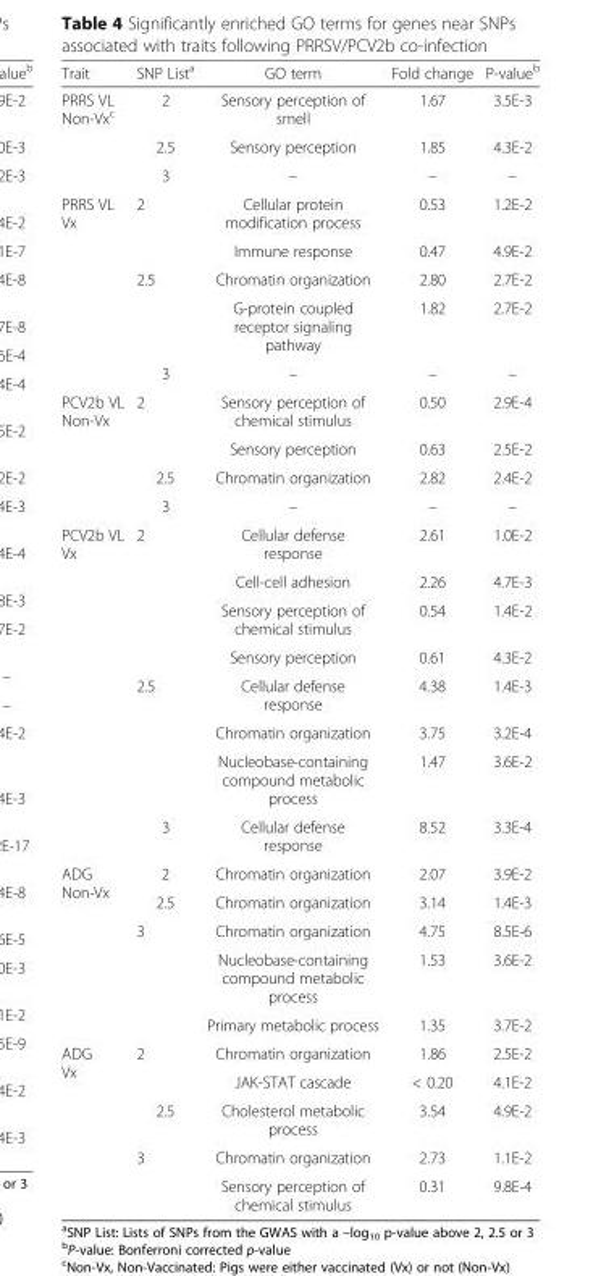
<table><thead><tr><td>Trait</td><td>SNP List<sup>a</sup></td><td>GO term</td><td>Fold change</td><td>P-value<sup>b</sup></td></tr></thead><tbody><tr><td rowspan="3">PRRS VL Non-Vx<sup>c</sup></td><td>2</td><td>Sensory perception of smell</td><td>1.67</td><td>3.5E-3</td></tr><tr><td>2.5</td><td>Sensory perception</td><td>1.85</td><td>4.3E-2</td></tr><tr><td>3</td><td>–</td><td>–</td><td>–</td></tr><tr><td rowspan="5">PRRS VL Vx</td><td rowspan="2">2</td><td>Cellular protein modification process</td><td>0.53</td><td>1.2E-2</td></tr><tr><td>Immune response</td><td>0.47</td><td>4.9E-2</td></tr><tr><td rowspan="2">2.5</td><td>Chromatin organization</td><td>2.80</td><td>2.7E-2</td></tr><tr><td>G-protein coupled receptor signaling pathway</td><td>1.82</td><td>2.7E-2</td></tr><tr><td>3</td><td>–</td><td>–</td><td>–</td></tr><tr><td rowspan="4">PCV2b VL Non-Vx</td><td rowspan="2">2</td><td>Sensory perception of chemical stimulus</td><td>0.50</td><td>2.9E-4</td></tr><tr><td>Sensory perception</td><td>0.63</td><td>2.5E-2</td></tr><tr><td>2.5</td><td>Chromatin organization</td><td>2.82</td><td>2.4E-2</td></tr><tr><td>3</td><td>–</td><td>–</td><td>–</td></tr><tr><td rowspan="8">PCV2b VL Vx</td><td rowspan="4">2</td><td>Cellular defense response</td><td>2.61</td><td>1.0E-2</td></tr><tr><td>Cell-cell adhesion</td><td>2.26</td><td>4.7E-3</td></tr><tr><td>Sensory perception of chemical stimulus</td><td>0.54</td><td>1.4E-2</td></tr><tr><td>Sensory perception</td><td>0.61</td><td>4.3E-2</td></tr><tr><td rowspan="3">2.5</td><td>Cellular defense response</td><td>4.38</td><td>1.4E-3</td></tr><tr><td>Chromatin organization</td><td>3.75</td><td>3.2E-4</td></tr><tr><td>Nucleobase-containing compound metabolic process</td><td>1.47</td><td>3.6E-2</td></tr><tr><td>3</td><td>Cellular defense response</td><td>8.52</td><td>3.3E-4</td></tr><tr><td rowspan="5">ADG Non-Vx</td><td>2</td><td>Chromatin organization</td><td>2.07</td><td>3.9E-2</td></tr><tr><td>2.5</td><td>Chromatin organization</td><td>3.14</td><td>1.4E-3</td></tr><tr><td rowspan="3">3</td><td>Chromatin organization</td><td>4.75</td><td>8.5E-6</td></tr><tr><td>Nucleobase-containing compound metabolic process</td><td>1.53</td><td>3.6E-2</td></tr><tr><td>Primary metabolic process</td><td>1.35</td><td>3.7E-2</td></tr><tr><td rowspan="5">ADG Vx</td><td rowspan="2">2</td><td>Chromatin organization</td><td>1.86</td><td>2.5E-2</td></tr><tr><td>JAK-STAT cascade</td><td>&lt; 0.20</td><td>4.1E-2</td></tr><tr><td>2.5</td><td>Cholesterol metabolic process</td><td>3.54</td><td>4.9E-2</td></tr><tr><td rowspan="2">3</td><td>Chromatin organization</td><td>2.73</td><td>1.1E-2</td></tr><tr><td>Sensory perception of chemical stimulus</td><td>0.31</td><td>9.8E-4</td></tr></tbody></table>